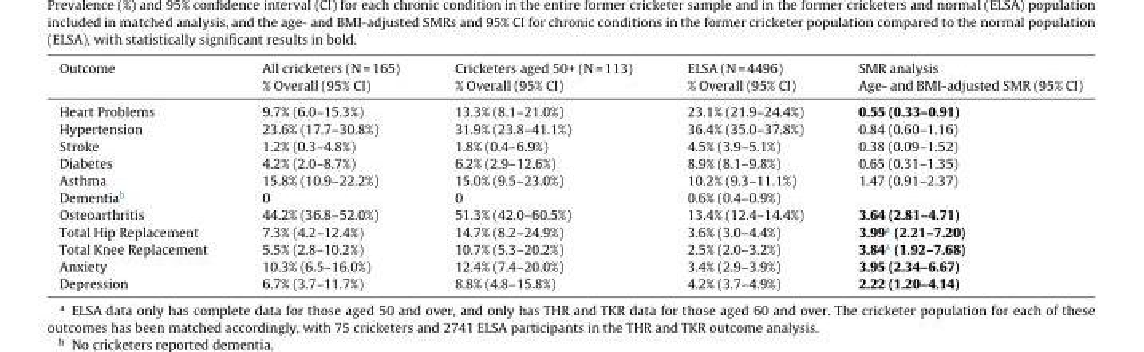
<table><thead><tr><td rowspan="2">Outcome</td><td rowspan="2">All cricketers (N = 165) % Overall (95% CI)</td><td rowspan="2">Cricketers aged 50+ (N = 113) % Overall (95% CI)</td><td rowspan="2">ELSA (N = 4496) % Overall (95% CI)</td><td rowspan="2">SMR analysis Age- and BMI-adjusted SMR (95% CI)</td></tr><tr></tr></thead><tbody><tr><td>Heart Problems</td><td>9.7% (6.0–15.3%)</td><td>13.3% (8.1–21.0%)</td><td>23.1% (21.9–24.4%)</td><td>0.55 (0.33–0.91)</td></tr><tr><td>Hypertension</td><td>23.6% (17.7–30.8%)</td><td>31.9% (23.8–41.1%)</td><td>36.4% (35.0–37.8%)</td><td>0.84 (0.60–1.16)</td></tr><tr><td>Stroke</td><td>1.2% (0.3–4.8%)</td><td>1.8% (0.4–6.9%)</td><td>4.5% (3.9–5.1%)</td><td>0.38 (0.09–1.52)</td></tr><tr><td>Diabetes</td><td>4.2% (2.0–8.7%)</td><td>6.2% (2.9–12.6%)</td><td>8.9% (8.1–9.8%)</td><td>0.65 (0.31–1.35)</td></tr><tr><td>Asthma</td><td>15.8% (10.9–22.2%)</td><td>15.0% (9.5–23.0%)</td><td>10.2% (9.3–11.1%)</td><td>1.47 (0.91–2.37)</td></tr><tr><td>Dementia<sup>b</sup></td><td>0</td><td>0</td><td>0.6% (0.4–0.9%)</td><td></td></tr><tr><td>Osteoarthritis</td><td>44.2% (36.8–52.0%)</td><td>51.3% (42.0–60.5%)</td><td>13.4% (12.4–14.4%)</td><td>3.64 (2.81–4.71)</td></tr><tr><td>Total Hip Replacement</td><td>7.3% (4.2–12.4%)</td><td>14.7% (8.2–24.9%)</td><td>3.6% (3.0–4.4%)</td><td>3.99<sup>a</sup> (2.21–7.20)</td></tr><tr><td>Total Knee Replacement</td><td>5.5% (2.8–10.2%)</td><td>10.7% (5.3–20.2%)</td><td>2.5% (2.0–3.2%)</td><td>3.84<sup>a</sup> (1.92–7.68)</td></tr><tr><td>Anxiety</td><td>10.3% (6.5–16.0%)</td><td>12.4% (7.4–20.0%)</td><td>3.4% (2.9–3.9%)</td><td>3.95 (2.34–6.67)</td></tr><tr><td>Depression</td><td>6.7% (3.7–11.7%)</td><td>8.8% (4.8–15.8%)</td><td>4.2% (3.7–4.9%)</td><td>2.22 (1.20–4.14)</td></tr></tbody></table>